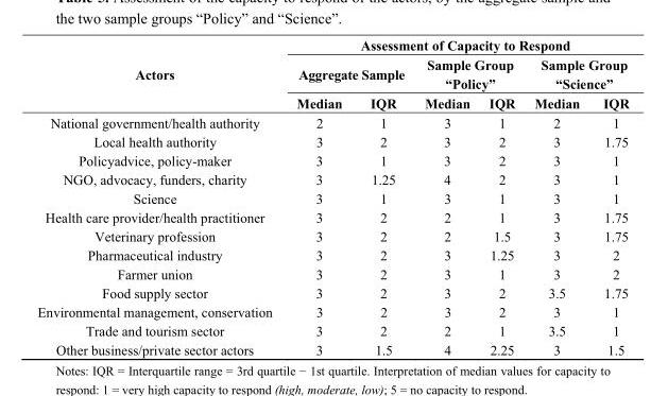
<table><thead><tr><td rowspan="3">Actors</td><td colspan="6">Assessment of Capacity to Respond</td></tr><tr><td colspan="2">Aggregate Sample</td><td colspan="2">Sample Group “Policy”</td><td colspan="2">Sample Group “Science”</td></tr><tr><td>Median</td><td>IQR</td><td>Median</td><td>IQR</td><td>Median</td><td>IQR</td></tr></thead><tbody><tr><td>National government/health authority</td><td>2</td><td>1</td><td>3</td><td>1</td><td>2</td><td>1</td></tr><tr><td>Local health authority</td><td>3</td><td>2</td><td>3</td><td>2</td><td>3</td><td>1.75</td></tr><tr><td>Policyadvice, policy-maker</td><td>3</td><td>1</td><td>3</td><td>2</td><td>3</td><td>1</td></tr><tr><td>NGO, advocacy, funders, charity</td><td>3</td><td>1.25</td><td>4</td><td>2</td><td>3</td><td>1</td></tr><tr><td>Science</td><td>3</td><td>1</td><td>3</td><td>1</td><td>3</td><td>1</td></tr><tr><td>Health care provider/health practitioner</td><td>3</td><td>2</td><td>2</td><td>1</td><td>3</td><td>1.75</td></tr><tr><td>Veterinary profession</td><td>3</td><td>2</td><td>2</td><td>1.5</td><td>3</td><td>1.75</td></tr><tr><td>Pharmaceutical industry</td><td>3</td><td>2</td><td>3</td><td>1.25</td><td>3</td><td>2</td></tr><tr><td>Farmer union</td><td>3</td><td>2</td><td>3</td><td>1</td><td>3</td><td>2</td></tr><tr><td>Food supply sector</td><td>3</td><td>2</td><td>3</td><td>2</td><td>3.5</td><td>1.75</td></tr><tr><td>Environmental management, conservation</td><td>3</td><td>2</td><td>3</td><td>2</td><td>3</td><td>1</td></tr><tr><td>Trade and tourism sector</td><td>3</td><td>2</td><td>2</td><td>1</td><td>3.5</td><td>1</td></tr><tr><td>Other business/private sector actors</td><td>3</td><td>1.5</td><td>4</td><td>2.25</td><td>3</td><td>1.5</td></tr></tbody></table>